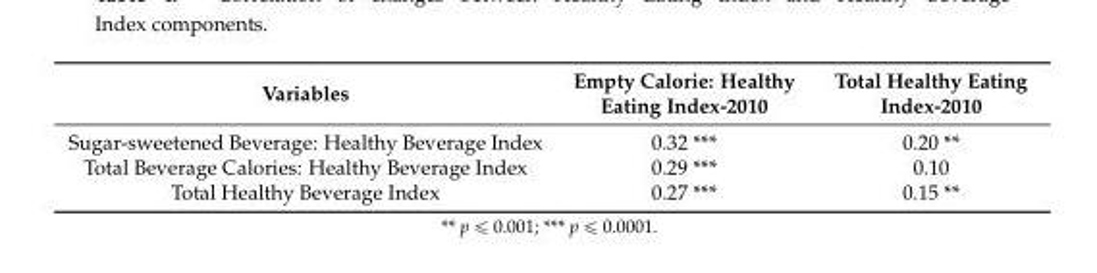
<table><thead><tr><td>Variables</td><td>Empty Calorie: Healthy Eating Index-2010</td><td>Total Healthy Eating Index-2010</td></tr></thead><tbody><tr><td>Sugar-sweetened Beverage: Healthy Beverage Index</td><td>0.32 ***</td><td>0.20 **</td></tr><tr><td>Total Beverage Calories: Healthy Beverage Index</td><td>0.29 ***</td><td>0.10</td></tr><tr><td>Total Healthy Beverage Index</td><td>0.27 ***</td><td>0.15 **</td></tr></tbody></table>